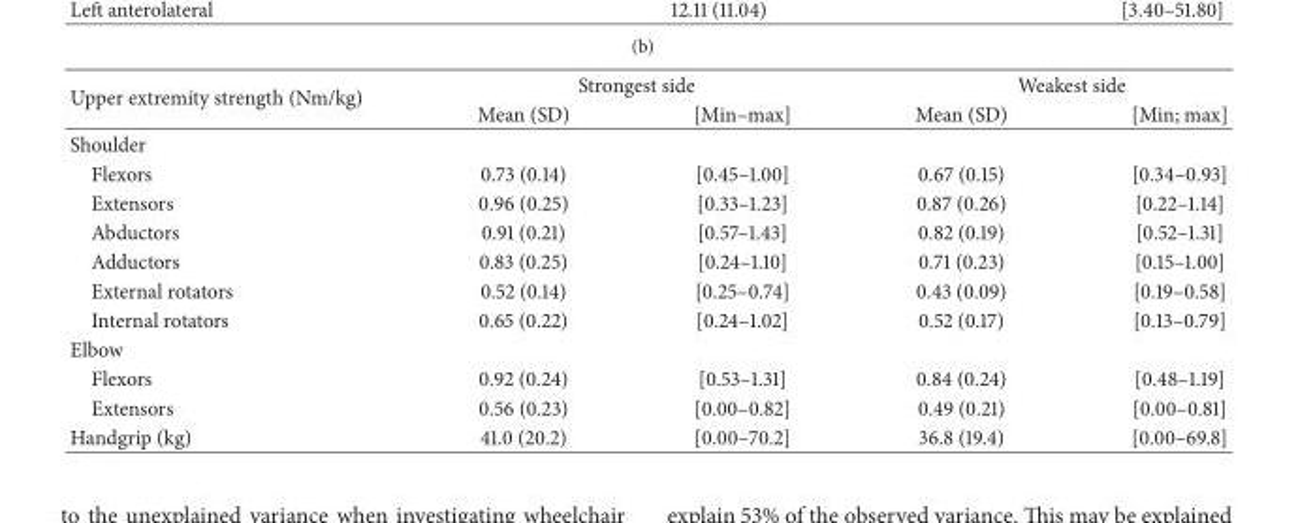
<table><thead><tr><td rowspan="2">Upper extremity strength (Nm/kg)</td><td colspan="2">Strongest side</td><td colspan="2">Weakest side</td></tr><tr><td>Mean (SD)</td><td>[Min–max]</td><td>Mean (SD)</td><td>[Min; max]</td></tr></thead><tbody><tr><td colspan="5">Shoulder</td></tr><tr><td>Flexors</td><td>0.73 (0.14)</td><td>[0.45–1.00]</td><td>0.67 (0.15)</td><td>[0.34–0.93]</td></tr><tr><td>Extensors</td><td>0.96 (0.25)</td><td>[0.33–1.23]</td><td>0.87 (0.26)</td><td>[0.22–1.14]</td></tr><tr><td>Abductors</td><td>0.91 (0.21)</td><td>[0.57–1.43]</td><td>0.82 (0.19)</td><td>[0.52–1.31]</td></tr><tr><td>Adductors</td><td>0.83 (0.25)</td><td>[0.24–1.10]</td><td>0.71 (0.23)</td><td>[0.15–1.00]</td></tr><tr><td>External rotators</td><td>0.52 (0.14)</td><td>[0.25–0.74]</td><td>0.43 (0.09)</td><td>[0.19–0.58]</td></tr><tr><td>Internal rotators</td><td>0.65 (0.22)</td><td>[0.24–1.02]</td><td>0.52 (0.17)</td><td>[0.13–0.79]</td></tr><tr><td colspan="5">Elbow</td></tr><tr><td>Flexors</td><td>0.92 (0.24)</td><td>[0.53–1.31]</td><td>0.84 (0.24)</td><td>[0.48–1.19]</td></tr><tr><td>Extensors</td><td>0.56 (0.23)</td><td>[0.00–0.82]</td><td>0.49 (0.21)</td><td>[0.00–0.81]</td></tr><tr><td>Handgrip (kg)</td><td>41.0 (20.2)</td><td>[0.00–70.2]</td><td>36.8 (19.4)</td><td>[0.00–69.8]</td></tr></tbody></table>